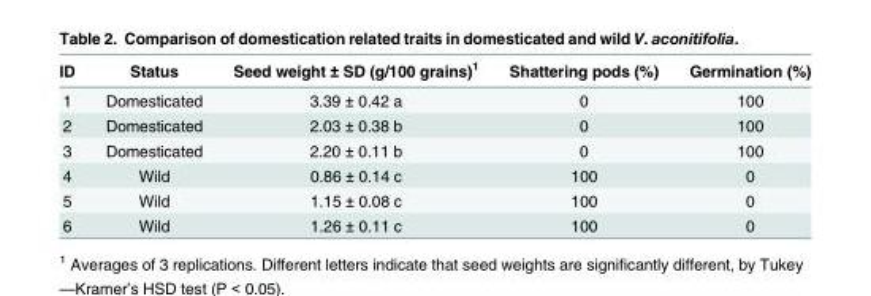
<table><thead><tr><td>ID</td><td>Status</td><td>Seed weight ± SD (g/100 grains)<sup>1</sup></td><td>Shattering pods (%)</td><td>Germination (%)</td></tr></thead><tbody><tr><td>1</td><td>Domesticated</td><td>3.39 ± 0.42 a</td><td>0</td><td>100</td></tr><tr><td>2</td><td>Domesticated</td><td>2.03 ± 0.38 b</td><td>0</td><td>100</td></tr><tr><td>3</td><td>Domesticated</td><td>2.20 ± 0.11 b</td><td>0</td><td>100</td></tr><tr><td>4</td><td>Wild</td><td>0.86 ± 0.14 c</td><td>100</td><td>0</td></tr><tr><td>5</td><td>Wild</td><td>1.15 ± 0.08 c</td><td>100</td><td>0</td></tr><tr><td>6</td><td>Wild</td><td>1.26 ± 0.11 c</td><td>100</td><td>0</td></tr></tbody></table>